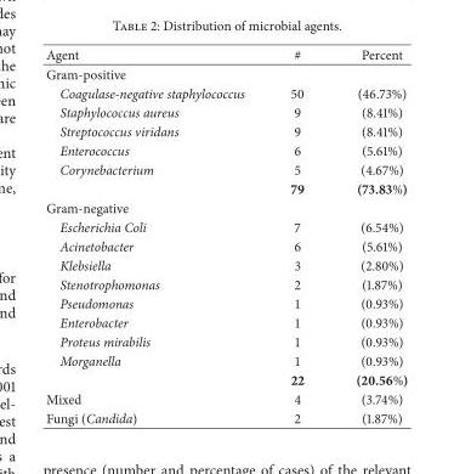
<table><thead><tr><td>Agent</td><td>#</td><td>Percent</td></tr></thead><tbody><tr><td colspan="3">Gram-positive</td></tr><tr><td>Coagulase-negative staphylococcus</td><td>50</td><td>(46.73%)</td></tr><tr><td>Staphylococcus aureus</td><td>9</td><td>(8.41%)</td></tr><tr><td>Streptococcus viridans</td><td>9</td><td>(8.41%)</td></tr><tr><td>Enterococcus</td><td>6</td><td>(5.61%)</td></tr><tr><td rowspan="2">Corynebacterium</td><td>5</td><td>(4.67%)</td></tr><tr><td>79</td><td>(73.83%)</td></tr><tr><td colspan="3">Gram-negative</td></tr><tr><td>Escherichia Coli</td><td>7</td><td>(6.54%)</td></tr><tr><td>Acinetobacter</td><td>6</td><td>(5.61%)</td></tr><tr><td>Klebsiella</td><td>3</td><td>(2.80%)</td></tr><tr><td>Stenotrophomonas</td><td>2</td><td>(1.87%)</td></tr><tr><td>Pseudomonas</td><td>1</td><td>(0.93%)</td></tr><tr><td>Enterobacter</td><td>1</td><td>(0.93%)</td></tr><tr><td>Proteus mirabilis</td><td>1</td><td>(0.93%)</td></tr><tr><td rowspan="2">Morganella</td><td>1</td><td>(0.93%)</td></tr><tr><td>22</td><td>(20.56%)</td></tr><tr><td>Mixed</td><td>4</td><td>(3.74%)</td></tr><tr><td>Fungi (Candida)</td><td>2</td><td>(1.87%)</td></tr></tbody></table>